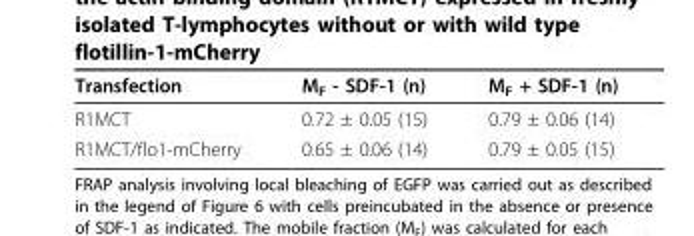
<table><thead><tr><td>Transfection</td><td>M<sub>F</sub> - SDF-1 (n)</td><td>M<sub>F</sub> + SDF-1 (n)</td></tr></thead><tbody><tr><td>R1MCT</td><td>0.72 ± 0.05 (15)</td><td>0.79 ± 0.06 (14)</td></tr><tr><td>R1MCT/flo1-mCherry</td><td>0.65 ± 0.06 (14)</td><td>0.79 ± 0.05 (15)</td></tr></tbody></table>